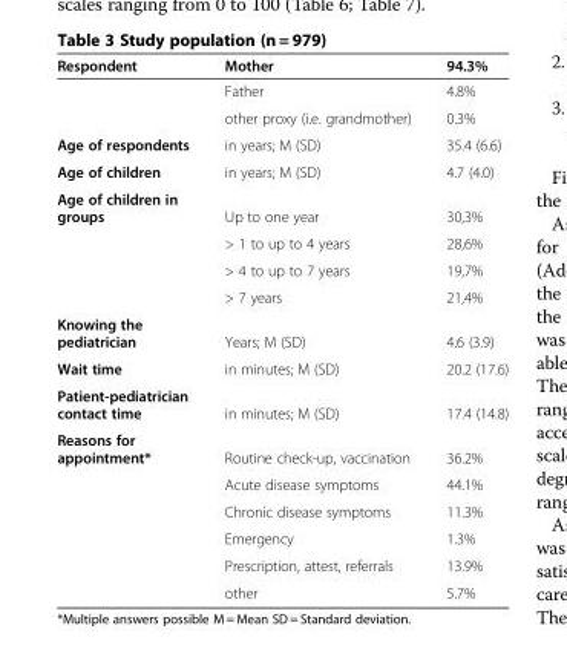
<table><thead><tr><td>Respondent</td><td>Mother</td><td>94.3%</td></tr></thead><tbody><tr><td></td><td>Father</td><td>4.8%</td></tr><tr><td></td><td>other proxy (i.e. grandmother)</td><td>0.3%</td></tr><tr><td>Age of respondents</td><td>in years; M (SD)</td><td>35.4 (6.6)</td></tr><tr><td>Age of children</td><td>in years; M (SD)</td><td>4.7 (4.0)</td></tr><tr><td rowspan="4">Age of children in groups</td><td>Up to one year</td><td>30,3%</td></tr><tr><td>&gt; 1 to up to 4 years</td><td>28,6%</td></tr><tr><td>&gt; 4 to up to 7 years</td><td>19,7%</td></tr><tr><td>&gt; 7 years</td><td>21,4%</td></tr><tr><td>Knowing the pediatrician</td><td>Years; M (SD)</td><td>4.6 (3.9)</td></tr><tr><td>Wait time</td><td>in minutes; M (SD)</td><td>20.2 (17.6)</td></tr><tr><td>Patient-pediatrician contact time</td><td>in minutes; M (SD)</td><td>17.4 (14.8)</td></tr><tr><td rowspan="6">Reasons for appointment*</td><td>Routine check-up, vaccination</td><td>36.2%</td></tr><tr><td>Acute disease symptoms</td><td>44.1%</td></tr><tr><td>Chronic disease symptoms</td><td>11.3%</td></tr><tr><td>Emergency</td><td>1.3%</td></tr><tr><td>Prescription, attest, referrals</td><td>13.9%</td></tr><tr><td>other</td><td>5.7%</td></tr></tbody></table>